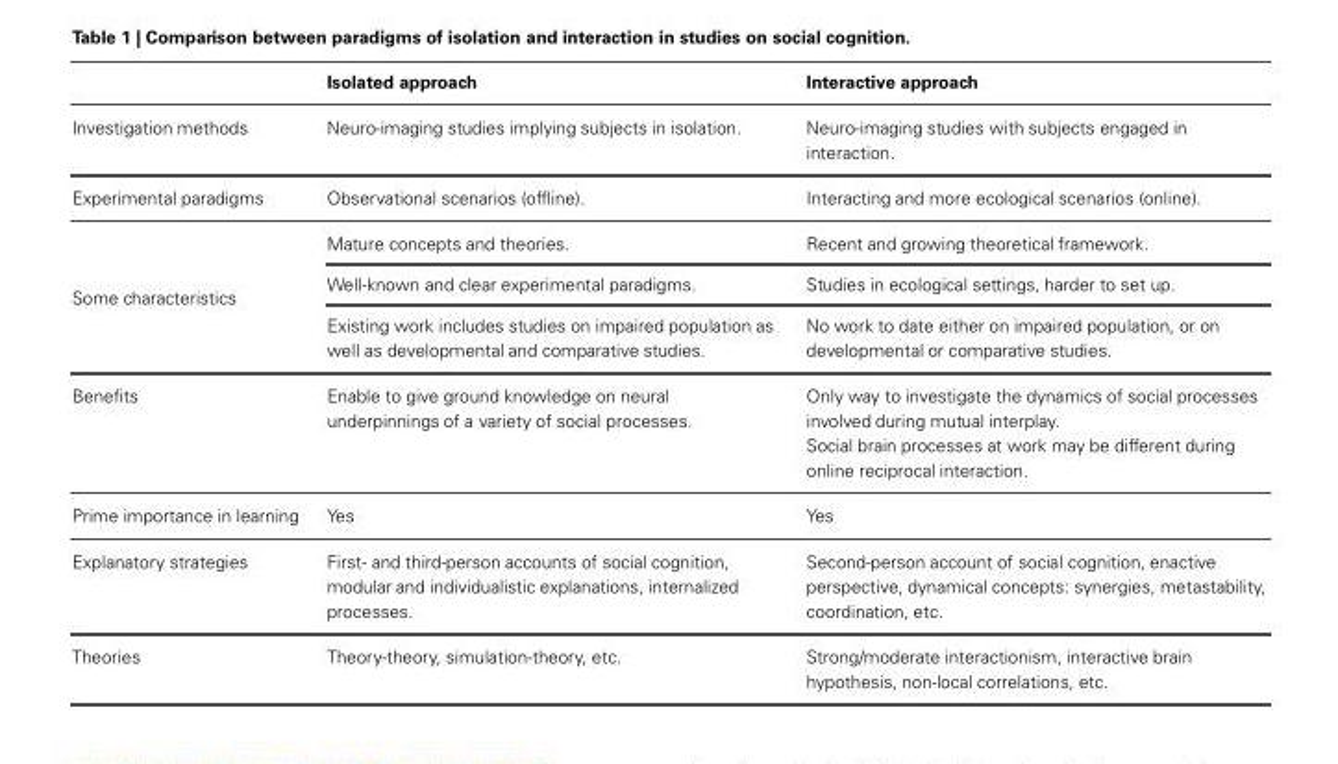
<table><thead><tr><td></td><td>Isolated approach</td><td>Interactive approach</td></tr></thead><tbody><tr><td>Investigation methods</td><td>Neuro-imaging studies implying subjects in isolation.</td><td>Neuro-imaging studies with subjects engaged in interaction.</td></tr><tr><td>Experimental paradigms</td><td>Observational scenarios (offline).</td><td>Interacting and more ecological scenarios (online).</td></tr><tr><td rowspan="3">Some characteristics</td><td>Mature concepts and theories.</td><td>Recent and growing theoretical framework.</td></tr><tr><td>Well-known and clear experimental paradigms.</td><td>Studies in ecological settings, harder to set up.</td></tr><tr><td>Existing work includes studies on impaired population as well as developmental and comparative studies.</td><td>No work to date either on impaired population, or on developmental or comparative studies.</td></tr><tr><td rowspan="2">Benefits</td><td>Enable to give ground knowledge on neural underpinnings of a variety of social processes.</td><td>Only way to investigate the dynamics of social processes involved during mutual interplay.</td></tr><tr><td></td><td>Social brain processes at work may be different during online reciprocal interaction.</td></tr><tr><td>Prime importance in learning</td><td>Yes</td><td>Yes</td></tr><tr><td>Explanatory strategies</td><td>First- and third-person accounts of social cognition, modular and individualistic explanations, internalized processes.</td><td>Second-person account of social cognition, enactive perspective, dynamical concepts: synergies, metastability, coordination, etc.</td></tr><tr><td>Theories</td><td>Theory-theory, simulation-theory, etc.</td><td>Strong/moderate interactionism, interactive brain hypothesis, non-local correlations, etc.</td></tr></tbody></table>